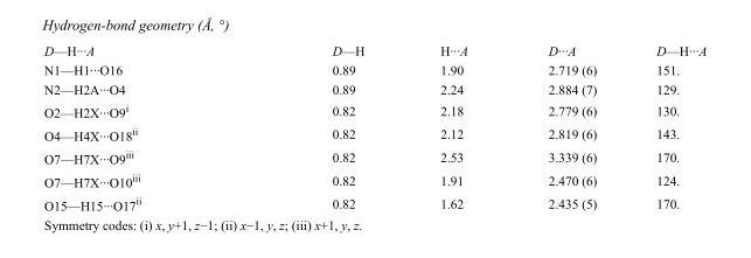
<table><tbody><tr><td>D—H···A</td><td>D—H</td><td>H···A</td><td>D···A</td><td>D—H···A</td></tr><tr><td>N1—H1···O16</td><td>0.89</td><td>1.90</td><td>2.719 (6)</td><td>151.</td></tr><tr><td>N2—H2A···O4</td><td>0.89</td><td>2.24</td><td>2.884 (7)</td><td>129.</td></tr><tr><td>O2—H2X···O9<sup>i</sup></td><td>0.82</td><td>2.18</td><td>2.779 (6)</td><td>130.</td></tr><tr><td>O4—H4X···O18<sup>ii</sup></td><td>0.82</td><td>2.12</td><td>2.819 (6)</td><td>143.</td></tr><tr><td>O7—H7X···O9<sup>iii</sup></td><td>0.82</td><td>2.53</td><td>3.339 (6)</td><td>170.</td></tr><tr><td>O7—H7X···O10<sup>iii</sup></td><td>0.82</td><td>1.91</td><td>2.470 (6)</td><td>124.</td></tr><tr><td>O15—H15···O17<sup>ii</sup></td><td>0.82</td><td>1.62</td><td>2.435 (5)</td><td>170.</td></tr></tbody></table>